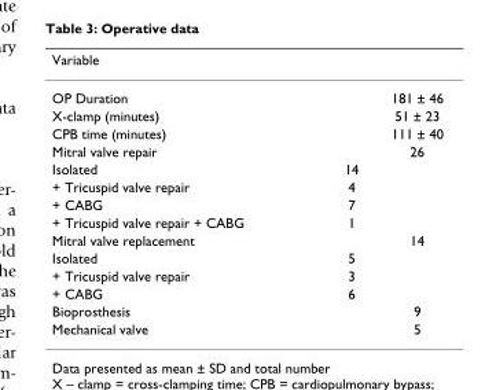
<table><thead><tr><td>Variable</td><td></td><td></td></tr></thead><tbody><tr><td>OP Duration</td><td></td><td>181 ± 46</td></tr><tr><td>X-clamp (minutes)</td><td></td><td>51 ± 23</td></tr><tr><td>CPB time (minutes)</td><td></td><td>111 ± 40</td></tr><tr><td>Mitral valve repair</td><td></td><td>26</td></tr><tr><td>Isolated</td><td>14</td><td></td></tr><tr><td>+ Tricuspid valve repair</td><td>4</td><td></td></tr><tr><td>+ CABG</td><td>7</td><td></td></tr><tr><td>+ Tricuspid valve repair + CABG</td><td>1</td><td></td></tr><tr><td>Mitral valve replacement</td><td></td><td>14</td></tr><tr><td>Isolated</td><td>5</td><td></td></tr><tr><td>+ Tricuspid valve repair</td><td>3</td><td></td></tr><tr><td>+ CABG</td><td>6</td><td></td></tr><tr><td>Bioprosthesis</td><td></td><td>9</td></tr><tr><td>Mechanical valve</td><td></td><td>5</td></tr></tbody></table>